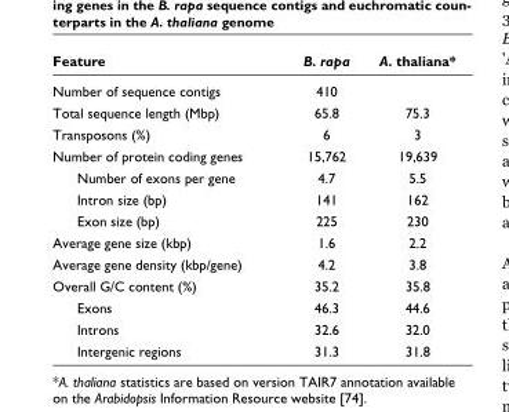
<table><thead><tr><td>Feature</td><td>B. rapa</td><td>A. thaliana*</td></tr></thead><tbody><tr><td>Number of sequence contigs</td><td>410</td><td></td></tr><tr><td>Total sequence length (Mbp)</td><td>65.8</td><td>75.3</td></tr><tr><td>Transposons (%)</td><td>6</td><td>3</td></tr><tr><td>Number of protein coding genes</td><td>15,762</td><td>19,639</td></tr><tr><td>Number of exons per gene</td><td>4.7</td><td>5.5</td></tr><tr><td>Intron size (bp)</td><td>141</td><td>162</td></tr><tr><td>Exon size (bp)</td><td>225</td><td>230</td></tr><tr><td>Average gene size (kbp)</td><td>1.6</td><td>2.2</td></tr><tr><td>Average gene density (kbp/gene)</td><td>4.2</td><td>3.8</td></tr><tr><td>Overall G/C content (%)</td><td>35.2</td><td>35.8</td></tr><tr><td>Exons</td><td>46.3</td><td>44.6</td></tr><tr><td>Introns</td><td>32.6</td><td>32.0</td></tr><tr><td>Intergenic regions</td><td>31.3</td><td>31.8</td></tr></tbody></table>